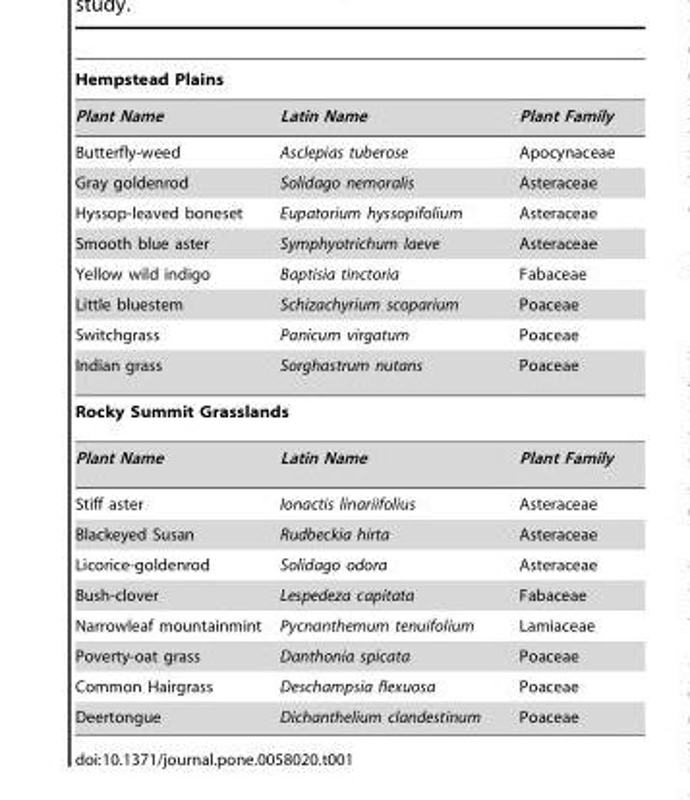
<table><thead><tr><td colspan="3">Hempstead Plains</td></tr><tr><td>Plant Name</td><td>Latin Name</td><td>Plant Family</td></tr></thead><tbody><tr><td>Butterfly-weed</td><td>Asclepias tuberose</td><td>Apocynaceae</td></tr><tr><td>Gray goldenrod</td><td>Solidago nemoralis</td><td>Asteraceae</td></tr><tr><td>Hyssop-leaved boneset</td><td>Eupatorium hyssopifolium</td><td>Asteraceae</td></tr><tr><td>Smooth blue aster</td><td>Symphyotrichum laeve</td><td>Asteraceae</td></tr><tr><td>Yellow wild indigo</td><td>Baptisia tinctoria</td><td>Fabaceae</td></tr><tr><td>Little bluestem</td><td>Schizachyrium scoparium</td><td>Poaceae</td></tr><tr><td>Switchgrass</td><td>Panicum virgatum</td><td>Poaceae</td></tr><tr><td>Indian grass</td><td>Sorghastrum nutans</td><td>Poaceae</td></tr><tr><td colspan="3">Rocky Summit Grasslands</td></tr><tr><td>Plant Name</td><td>Latin Name</td><td>Plant Family</td></tr><tr><td>Stiff aster</td><td>Ionactis linariifolius</td><td>Asteraceae</td></tr><tr><td>Blackeyed Susan</td><td>Rudbeckia hirta</td><td>Asteraceae</td></tr><tr><td>Licorice-goldenrod</td><td>Solidago odora</td><td>Asteraceae</td></tr><tr><td>Bush-clover</td><td>Lespedeza capitata</td><td>Fabaceae</td></tr><tr><td>Narrowleaf mountainmint</td><td>Pycnanthemum tenuifolium</td><td>Lamiaceae</td></tr><tr><td>Poverty-oat grass</td><td>Danthonia spicata</td><td>Poaceae</td></tr><tr><td>Common Hairgrass</td><td>Deschampsia flexuosa</td><td>Poaceae</td></tr><tr><td>Deertongue</td><td>Dichanthelium clandestinum</td><td>Poaceae</td></tr></tbody></table>